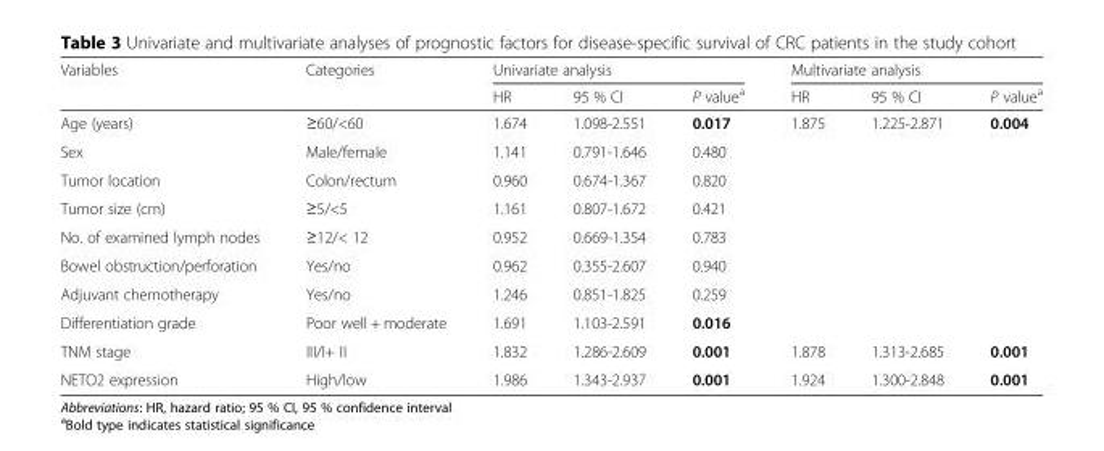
<table><thead><tr><td rowspan="2">Variables</td><td rowspan="2">Categories</td><td colspan="3">Univariate analysis</td><td colspan="3">Multivariate analysis</td></tr><tr><td>HR</td><td>95 % CI</td><td>P value<sup>a</sup></td><td>HR</td><td>95 % CI</td><td>P value<sup>a</sup></td></tr></thead><tbody><tr><td>Age (years)</td><td>≥60/&lt;60</td><td>1.674</td><td>1.098-2.551</td><td>0.017</td><td>1.875</td><td>1.225-2.871</td><td>0.004</td></tr><tr><td>Sex</td><td>Male/female</td><td>1.141</td><td>0.791-1.646</td><td>0.480</td><td></td><td></td><td></td></tr><tr><td>Tumor location</td><td>Colon/rectum</td><td>0.960</td><td>0.674-1.367</td><td>0.820</td><td></td><td></td><td></td></tr><tr><td>Tumor size (cm)</td><td>≥5/&lt;5</td><td>1.161</td><td>0.807-1.672</td><td>0.421</td><td></td><td></td><td></td></tr><tr><td>No. of examined lymph nodes</td><td>≥12/&lt; 12</td><td>0.952</td><td>0.669-1.354</td><td>0.783</td><td></td><td></td><td></td></tr><tr><td>Bowel obstruction/perforation</td><td>Yes/no</td><td>0.962</td><td>0.355-2.607</td><td>0.940</td><td></td><td></td><td></td></tr><tr><td>Adjuvant chemotherapy</td><td>Yes/no</td><td>1.246</td><td>0.851-1.825</td><td>0.259</td><td></td><td></td><td></td></tr><tr><td>Differentiation grade</td><td>Poor well + moderate</td><td>1.691</td><td>1.103-2.591</td><td>0.016</td><td></td><td></td><td></td></tr><tr><td>TNM stage</td><td>III/I+ II</td><td>1.832</td><td>1.286-2.609</td><td>0.001</td><td>1.878</td><td>1.313-2.685</td><td>0.001</td></tr><tr><td>NETO2 expression</td><td>High/low</td><td>1.986</td><td>1.343-2.937</td><td>0.001</td><td>1.924</td><td>1.300-2.848</td><td>0.001</td></tr></tbody></table>